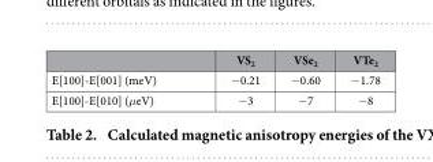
<table><thead><tr><td></td><td>VS<sub>2</sub></td><td>VSe<sub>2</sub></td><td>VTe<sub>2</sub></td></tr></thead><tbody><tr><td>E[100]-E[001] (meV)</td><td>−0.21</td><td>−0.60</td><td>−1.78</td></tr><tr><td>E[100]-E[010] (μeV)</td><td>−3</td><td>−7</td><td>−8</td></tr></tbody></table>